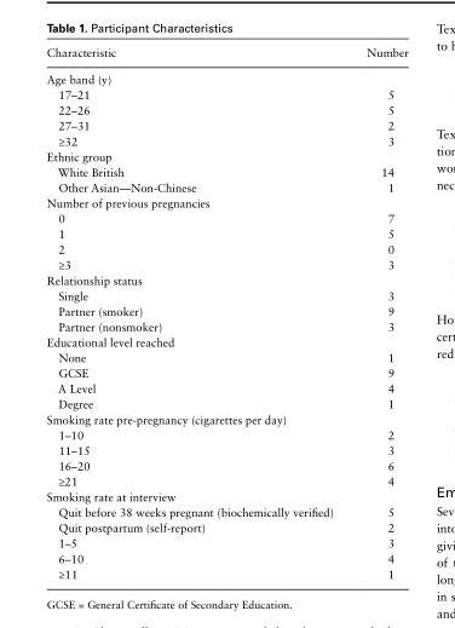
<table><thead><tr><td>Characteristic</td><td>Number</td></tr></thead><tbody><tr><td colspan="2">Age band (y)</td></tr><tr><td>17–21</td><td>5</td></tr><tr><td>22–26</td><td>5</td></tr><tr><td>27–31</td><td>2</td></tr><tr><td>≥32</td><td>3</td></tr><tr><td colspan="2">Ethnic group</td></tr><tr><td>White British</td><td>14</td></tr><tr><td>Other Asian—Non-Chinese</td><td>1</td></tr><tr><td colspan="2">Number of previous pregnancies</td></tr><tr><td>0</td><td>7</td></tr><tr><td>1</td><td>5</td></tr><tr><td>2</td><td>0</td></tr><tr><td>≥3</td><td>3</td></tr><tr><td colspan="2">Relationship status</td></tr><tr><td>Single</td><td>3</td></tr><tr><td>Partner (smoker)</td><td>9</td></tr><tr><td>Partner (nonsmoker)</td><td>3</td></tr><tr><td colspan="2">Educational level reached</td></tr><tr><td>None</td><td>1</td></tr><tr><td>GCSE</td><td>9</td></tr><tr><td>A Level</td><td>4</td></tr><tr><td>Degree</td><td>1</td></tr><tr><td colspan="2">Smoking rate pre-pregnancy (cigarettes per day)</td></tr><tr><td>1–10</td><td>2</td></tr><tr><td>11–15</td><td>3</td></tr><tr><td>16–20</td><td>6</td></tr><tr><td>≥21</td><td>4</td></tr><tr><td colspan="2">Smoking rate at interview</td></tr><tr><td>Quit before 38 weeks pregnant (biochemically verified)</td><td>5</td></tr><tr><td>Quit postpartum (self-report)</td><td>2</td></tr><tr><td>1–5</td><td>3</td></tr><tr><td>6–10</td><td>4</td></tr><tr><td>≥11</td><td>1</td></tr></tbody></table>